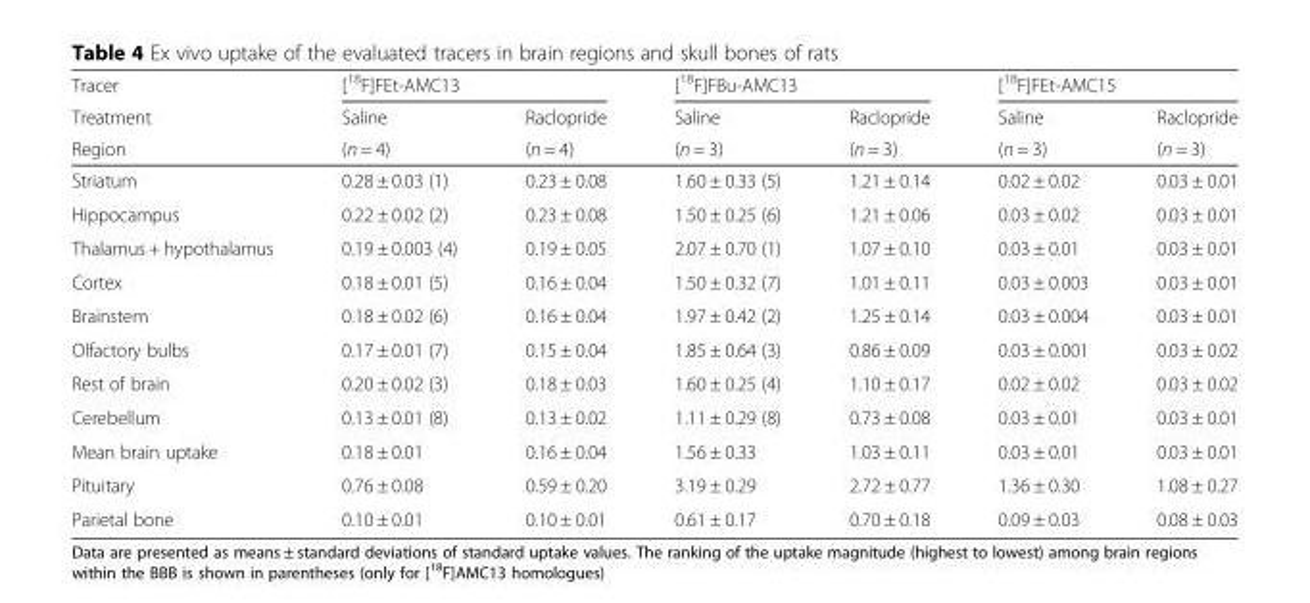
<table><thead><tr><td rowspan="3">Tracer Treatment Region</td><td colspan="2">[<sup>18</sup>F]FEt-AMC13</td><td colspan="2">[<sup>18</sup>F]FBu-AMC13</td><td colspan="2">[<sup>18</sup>F]FEt-AMC15</td></tr><tr><td rowspan="2">Saline (n = 4)</td><td rowspan="2">Raclopride (n = 4)</td><td rowspan="2">Saline (n = 3)</td><td rowspan="2">Raclopride (n = 3)</td><td rowspan="2">Saline (n = 3)</td><td rowspan="2">Raclopride (n = 3)</td></tr><tr></tr></thead><tbody><tr><td>Striatum</td><td>0.28 ± 0.03 (1)</td><td>0.23 ± 0.08</td><td>1.60 ± 0.33 (5)</td><td>1.21 ± 0.14</td><td>0.02 ± 0.02</td><td>0.03 ± 0.01</td></tr><tr><td>Hippocampus</td><td>0.22 ± 0.02 (2)</td><td>0.23 ± 0.08</td><td>1.50 ± 0.25 (6)</td><td>1.21 ± 0.06</td><td>0.03 ± 0.02</td><td>0.03 ± 0.01</td></tr><tr><td>Thalamus + hypothalamus</td><td>0.19 ± 0.003 (4)</td><td>0.19 ± 0.05</td><td>2.07 ± 0.70 (1)</td><td>1.07 ± 0.10</td><td>0.03 ± 0.01</td><td>0.03 ± 0.01</td></tr><tr><td>Cortex</td><td>0.18 ± 0.01 (5)</td><td>0.16 ± 0.04</td><td>1.50 ± 0.32 (7)</td><td>1.01 ± 0.11</td><td>0.03 ± 0.003</td><td>0.03 ± 0.01</td></tr><tr><td>Brainstem</td><td>0.18 ± 0.02 (6)</td><td>0.16 ± 0.04</td><td>1.97 ± 0.42 (2)</td><td>1.25 ± 0.14</td><td>0.03 ± 0.004</td><td>0.03 ± 0.01</td></tr><tr><td>Olfactory bulbs</td><td>0.17 ± 0.01 (7)</td><td>0.15 ± 0.04</td><td>1.85 ± 0.64 (3)</td><td>0.86 ± 0.09</td><td>0.03 ± 0.001</td><td>0.03 ± 0.02</td></tr><tr><td>Rest of brain</td><td>0.20 ± 0.02 (3)</td><td>0.18 ± 0.03</td><td>1.60 ± 0.25 (4)</td><td>1.10 ± 0.17</td><td>0.02 ± 0.02</td><td>0.03 ± 0.02</td></tr><tr><td>Cerebellum</td><td>0.13 ± 0.01 (8)</td><td>0.13 ± 0.02</td><td>1.11 ± 0.29 (8)</td><td>0.73 ± 0.08</td><td>0.03 ± 0.01</td><td>0.03 ± 0.01</td></tr><tr><td>Mean brain uptake</td><td>0.18 ± 0.01</td><td>0.16 ± 0.04</td><td>1.56 ± 0.33</td><td>1.03 ± 0.11</td><td>0.03 ± 0.01</td><td>0.03 ± 0.01</td></tr><tr><td>Pituitary</td><td>0.76 ± 0.08</td><td>0.59 ± 0.20</td><td>3.19 ± 0.29</td><td>2.72 ± 0.77</td><td>1.36 ± 0.30</td><td>1.08 ± 0.27</td></tr><tr><td>Parietal bone</td><td>0.10 ± 0.01</td><td>0.10 ± 0.01</td><td>0.61 ± 0.17</td><td>0.70 ± 0.18</td><td>0.09 ± 0.03</td><td>0.08 ± 0.03</td></tr></tbody></table>